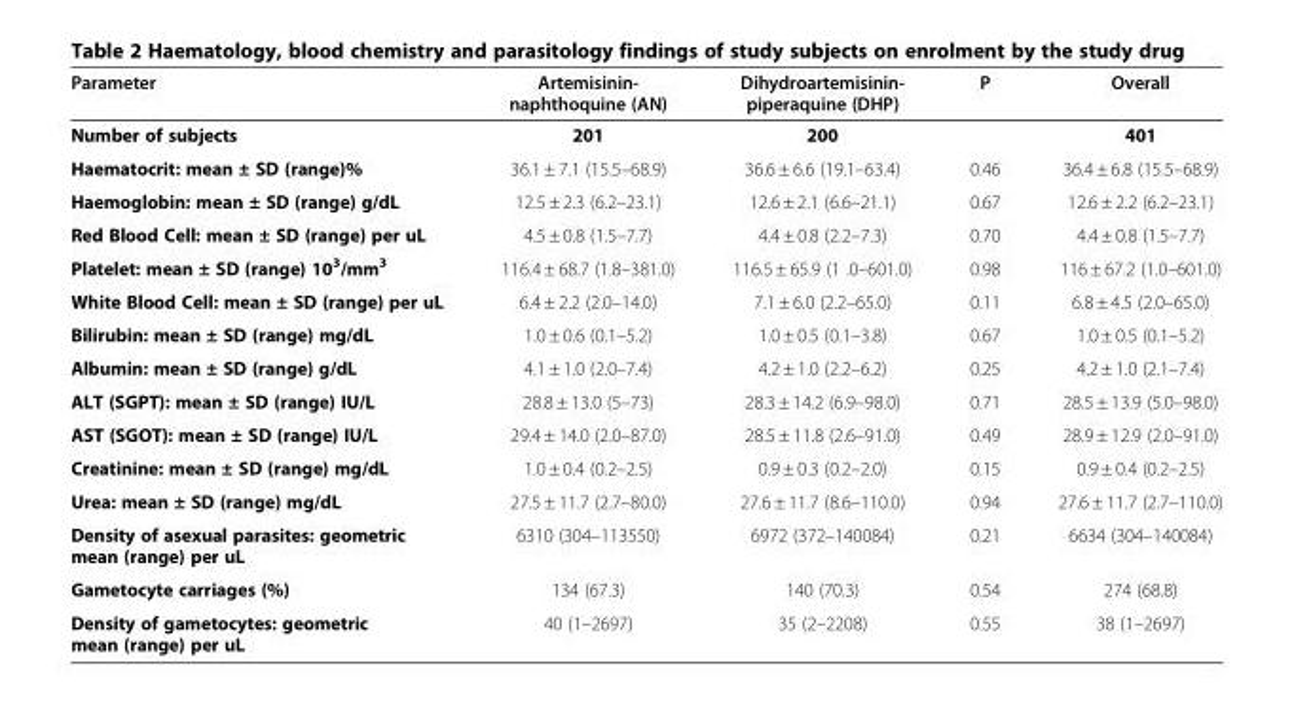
<table><thead><tr><td>Parameter</td><td>Artemisinin- naphthoquine (AN)</td><td>Dihydroartemisinin- piperaquine (DHP)</td><td>P</td><td>Overall</td></tr></thead><tbody><tr><td>Number of subjects</td><td>201</td><td>200</td><td></td><td>401</td></tr><tr><td>Haematocrit: mean ± SD (range)%</td><td>36.1 ± 7.1 (15.5–68.9)</td><td>36.6 ± 6.6 (19.1–63.4)</td><td>0.46</td><td>36.4 ± 6.8 (15.5–68.9)</td></tr><tr><td>Haemoglobin: mean ± SD (range) g/dL</td><td>12.5 ± 2.3 (6.2–23.1)</td><td>12.6 ± 2.1 (6.6–21.1)</td><td>0.67</td><td>12.6 ± 2.2 (6.2–23.1)</td></tr><tr><td>Red Blood Cell: mean ± SD (range) per uL</td><td>4.5 ± 0.8 (1.5–7.7)</td><td>4.4 ± 0.8 (2.2–7.3)</td><td>0.70</td><td>4.4 ± 0.8 (1.5–7.7)</td></tr><tr><td>Platelet: mean ± SD (range) 10<sup>3</sup>/mm<sup>3</sup></td><td>116.4 ± 68.7 (1.8–381.0)</td><td>116.5 ± 65.9 (1 .0–601.0)</td><td>0.98</td><td>116 ± 67.2 (1.0–601.0)</td></tr><tr><td>White Blood Cell: mean ± SD (range) per uL</td><td>6.4 ± 2.2 (2.0–14.0)</td><td>7.1 ± 6.0 (2.2–65.0)</td><td>0.11</td><td>6.8 ± 4.5 (2.0–65.0)</td></tr><tr><td>Bilirubin: mean ± SD (range) mg/dL</td><td>1.0 ± 0.6 (0.1–5.2)</td><td>1.0 ± 0.5 (0.1–3.8)</td><td>0.67</td><td>1.0 ± 0.5 (0.1–5.2)</td></tr><tr><td>Albumin: mean ± SD (range) g/dL</td><td>4.1 ± 1.0 (2.0–7.4)</td><td>4.2 ± 1.0 (2.2–6.2)</td><td>0.25</td><td>4.2 ± 1.0 (2.1–7.4)</td></tr><tr><td>ALT (SGPT): mean ± SD (range) IU/L</td><td>28.8 ± 13.0 (5–73)</td><td>28.3 ± 14.2 (6.9–98.0)</td><td>0.71</td><td>28.5 ± 13.9 (5.0–98.0)</td></tr><tr><td>AST (SGOT): mean ± SD (range) IU/L</td><td>29.4 ± 14.0 (2.0–87.0)</td><td>28.5 ± 11.8 (2.6–91.0)</td><td>0.49</td><td>28.9 ± 12.9 (2.0–91.0)</td></tr><tr><td>Creatinine: mean ± SD (range) mg/dL</td><td>1.0 ± 0.4 (0.2–2.5)</td><td>0.9 ± 0.3 (0.2–2.0)</td><td>0.15</td><td>0.9 ± 0.4 (0.2–2.5)</td></tr><tr><td>Urea: mean ± SD (range) mg/dL</td><td>27.5 ± 11.7 (2.7–80.0)</td><td>27.6 ± 11.7 (8.6–110.0)</td><td>0.94</td><td>27.6 ± 11.7 (2.7–110.0)</td></tr><tr><td>Density of asexual parasites: geometric mean (range) per uL</td><td>6310 (304–113550)</td><td>6972 (372–140084)</td><td>0.21</td><td>6634 (304–140084)</td></tr><tr><td>Gametocyte carriages (%)</td><td>134 (67.3)</td><td>140 (70.3)</td><td>0.54</td><td>274 (68.8)</td></tr><tr><td>Density of gametocytes: geometric mean (range) per uL</td><td>40 (1–2697)</td><td>35 (2–2208)</td><td>0.55</td><td>38 (1–2697)</td></tr></tbody></table>